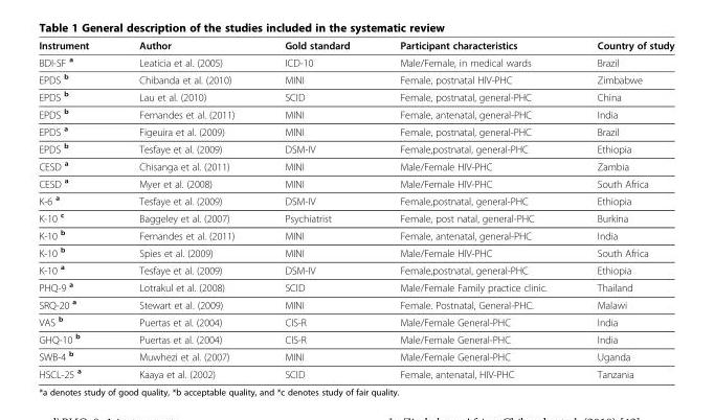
<table><thead><tr><td>Instrument</td><td>Author</td><td>Gold standard</td><td>Participant characteristics</td><td>Country of study</td></tr></thead><tbody><tr><td>BDI-SF <sup>a</sup></td><td>Leaticia et al. (2005)</td><td>ICD-10</td><td>Male/Female, in medical wards</td><td>Brazil</td></tr><tr><td>EPDS <sup>b</sup></td><td>Chibanda et al. (2010)</td><td>MINI</td><td>Female, postnatal HIV-PHC</td><td>Zimbabwe</td></tr><tr><td>EPDS <sup>b</sup></td><td>Lau et al. (2010)</td><td>SCID</td><td>Female, postnatal, general-PHC</td><td>China</td></tr><tr><td>EPDS <sup>b</sup></td><td>Fernandes et al. (2011)</td><td>MINI</td><td>Female, antenatal, general-PHC</td><td>India</td></tr><tr><td>EPDS <sup>a</sup></td><td>Figeuira et al. (2009)</td><td>MINI</td><td>Female, postnatal, general-PHC</td><td>Brazil</td></tr><tr><td>EPDS <sup>b</sup></td><td>Tesfaye et al. (2009)</td><td>DSM-IV</td><td>Female,postnatal, general-PHC</td><td>Ethiopia</td></tr><tr><td>CESD <sup>a</sup></td><td>Chisanga et al. (2011)</td><td>MINI</td><td>Male/Female HIV-PHC</td><td>Zambia</td></tr><tr><td>CESD <sup>a</sup></td><td>Myer et al. (2008)</td><td>MINI</td><td>Male/Female HIV-PHC</td><td>South Africa</td></tr><tr><td>K-6 <sup>a</sup></td><td>Tesfaye et al. (2009)</td><td>DSM-IV</td><td>Female,postnatal, general-PHC</td><td>Ethiopia</td></tr><tr><td>K-10 <sup>c</sup></td><td>Baggeley et al. (2007)</td><td>Psychiatrist</td><td>Female, post natal, general-PHC</td><td>Burkina</td></tr><tr><td>K-10 <sup>b</sup></td><td>Fernandes et al. (2011)</td><td>MINI</td><td>Female, antenatal, general-PHC</td><td>India</td></tr><tr><td>K-10 <sup>b</sup></td><td>Spies et al. (2009)</td><td>MINI</td><td>Male/Female HIV-PHC</td><td>South Africa</td></tr><tr><td>K-10 <sup>a</sup></td><td>Tesfaye et al. (2009)</td><td>DSM-IV</td><td>Female,postnatal, general-PHC</td><td>Ethiopia</td></tr><tr><td>PHQ-9 <sup>a</sup></td><td>Lotrakul et al. (2008)</td><td>SCID</td><td>Male/Female Family practice clinic.</td><td>Thailand</td></tr><tr><td>SRQ-20 <sup>a</sup></td><td>Stewart et al. (2009)</td><td>MINI</td><td>Female. Postnatal, General-PHC.</td><td>Malawi</td></tr><tr><td>VAS <sup>b</sup></td><td>Puertas et al. (2004)</td><td>CIS-R</td><td>Male/Female General-PHC</td><td>India</td></tr><tr><td>GHQ-10 <sup>b</sup></td><td>Puertas et al. (2004)</td><td>CIS-R</td><td>Male/Female General-PHC</td><td>India</td></tr><tr><td>SWB-4 <sup>b</sup></td><td>Muwhezi et al. (2007)</td><td>MINI</td><td>Male/Female General-PHC</td><td>Uganda</td></tr><tr><td>HSCL-25 <sup>a</sup></td><td>Kaaya et al. (2002)</td><td>SCID</td><td>Female, antenatal, HIV-PHC</td><td>Tanzania</td></tr></tbody></table>